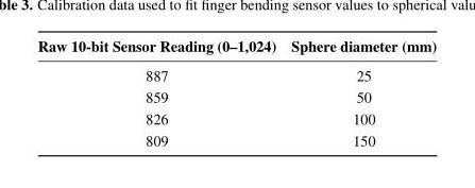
<table><thead><tr><td>Raw 10-bit Sensor Reading (0–1,024)</td><td>Sphere diameter (mm)</td></tr></thead><tbody><tr><td>887</td><td>25</td></tr><tr><td>859</td><td>50</td></tr><tr><td>826</td><td>100</td></tr><tr><td>809</td><td>150</td></tr></tbody></table>